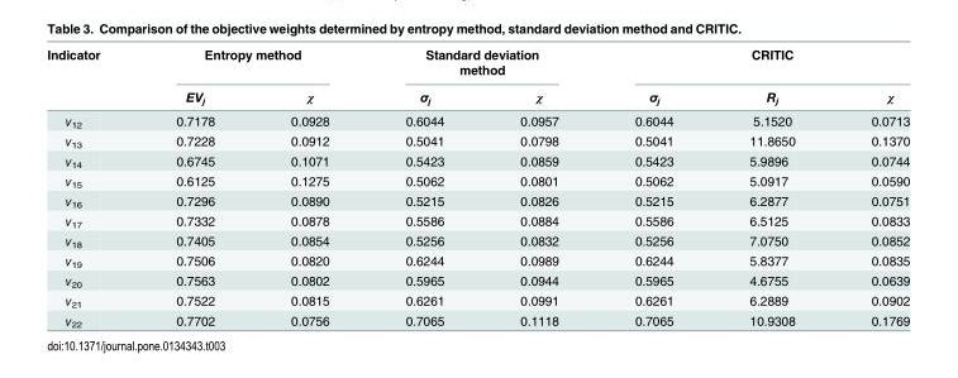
<table><thead><tr><td rowspan="2">Indicator</td><td colspan="2">Entropy method</td><td colspan="2">Standard deviation method</td><td colspan="3">CRITIC</td></tr><tr><td>EV<sub>j</sub></td><td>χ</td><td>σ<sub>j</sub></td><td>χ</td><td>σ<sub>j</sub></td><td>R<sub>j</sub></td><td>χ</td></tr></thead><tbody><tr><td>v<sub>12</sub></td><td>0.7178</td><td>0.0928</td><td>0.6044</td><td>0.0957</td><td>0.6044</td><td>5.1520</td><td>0.0713</td></tr><tr><td>v<sub>13</sub></td><td>0.7228</td><td>0.0912</td><td>0.5041</td><td>0.0798</td><td>0.5041</td><td>11.8650</td><td>0.1370</td></tr><tr><td>v<sub>14</sub></td><td>0.6745</td><td>0.1071</td><td>0.5423</td><td>0.0859</td><td>0.5423</td><td>5.9896</td><td>0.0744</td></tr><tr><td>v<sub>15</sub></td><td>0.6125</td><td>0.1275</td><td>0.5062</td><td>0.0801</td><td>0.5062</td><td>5.0917</td><td>0.0590</td></tr><tr><td>v<sub>16</sub></td><td>0.7296</td><td>0.0890</td><td>0.5215</td><td>0.0826</td><td>0.5215</td><td>6.2877</td><td>0.0751</td></tr><tr><td>v<sub>17</sub></td><td>0.7332</td><td>0.0878</td><td>0.5586</td><td>0.0884</td><td>0.5586</td><td>6.5125</td><td>0.0833</td></tr><tr><td>v<sub>18</sub></td><td>0.7405</td><td>0.0854</td><td>0.5256</td><td>0.0832</td><td>0.5256</td><td>7.0750</td><td>0.0852</td></tr><tr><td>v<sub>19</sub></td><td>0.7506</td><td>0.0820</td><td>0.6244</td><td>0.0989</td><td>0.6244</td><td>5.8377</td><td>0.0835</td></tr><tr><td>v<sub>20</sub></td><td>0.7563</td><td>0.0802</td><td>0.5965</td><td>0.0944</td><td>0.5965</td><td>4.6755</td><td>0.0639</td></tr><tr><td>v<sub>21</sub></td><td>0.7522</td><td>0.0815</td><td>0.6261</td><td>0.0991</td><td>0.6261</td><td>6.2889</td><td>0.0902</td></tr><tr><td>v<sub>22</sub></td><td>0.7702</td><td>0.0756</td><td>0.7065</td><td>0.1118</td><td>0.7065</td><td>10.9308</td><td>0.1769</td></tr></tbody></table>